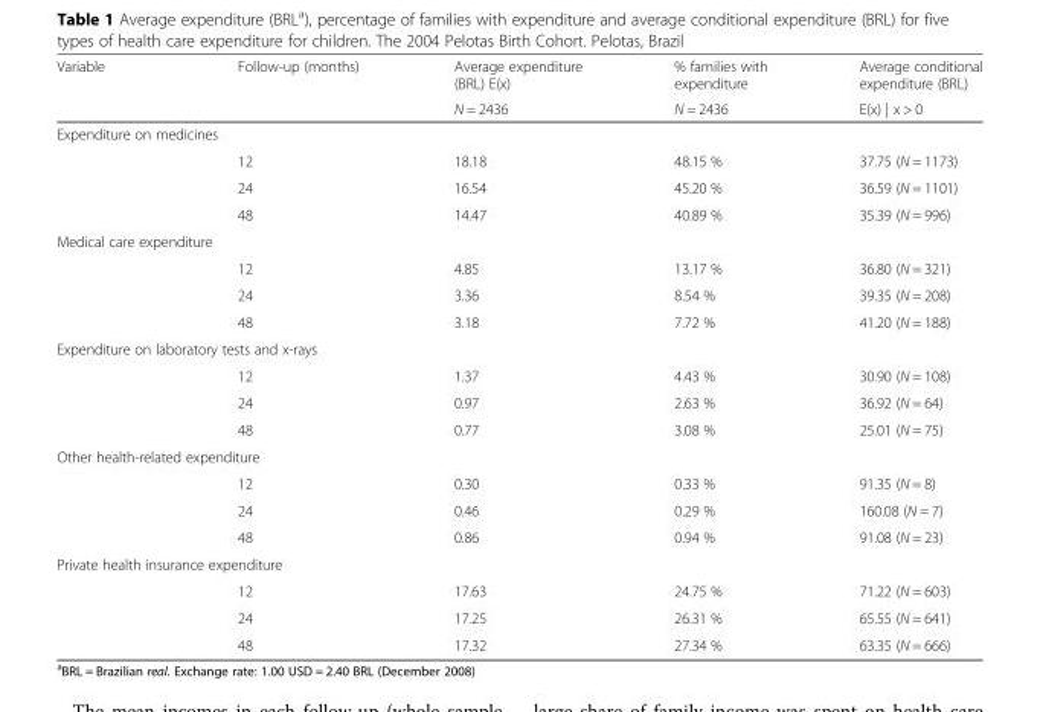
<table><thead><tr><td rowspan="2">Variable</td><td rowspan="2">Follow-up (months)</td><td rowspan="2">Average expenditure (BRL) E(x) N = 2436</td><td rowspan="2">% families with expenditure N = 2436</td><td rowspan="2">Average conditional expenditure (BRL) E(x) | x &gt; 0</td></tr><tr></tr></thead><tbody><tr><td colspan="5">Expenditure on medicines</td></tr><tr><td rowspan="3"></td><td>12</td><td>18.18</td><td>48.15 %</td><td>37.75 (N = 1173)</td></tr><tr><td>24</td><td>16.54</td><td>45.20 %</td><td>36.59 (N = 1101)</td></tr><tr><td>48</td><td>14.47</td><td>40.89 %</td><td>35.39 (N = 996)</td></tr><tr><td colspan="5">Medical care expenditure</td></tr><tr><td rowspan="3"></td><td>12</td><td>4.85</td><td>13.17 %</td><td>36.80 (N = 321)</td></tr><tr><td>24</td><td>3.36</td><td>8.54 %</td><td>39.35 (N = 208)</td></tr><tr><td>48</td><td>3.18</td><td>7.72 %</td><td>41.20 (N = 188)</td></tr><tr><td colspan="5">Expenditure on laboratory tests and x-rays</td></tr><tr><td rowspan="3"></td><td>12</td><td>1.37</td><td>4.43 %</td><td>30.90 (N = 108)</td></tr><tr><td>24</td><td>0.97</td><td>2.63 %</td><td>36.92 (N = 64)</td></tr><tr><td>48</td><td>0.77</td><td>3.08 %</td><td>25.01 (N = 75)</td></tr><tr><td colspan="5">Other health-related expenditure</td></tr><tr><td rowspan="3"></td><td>12</td><td>0.30</td><td>0.33 %</td><td>91.35 (N = 8)</td></tr><tr><td>24</td><td>0.46</td><td>0.29 %</td><td>160.08 (N = 7)</td></tr><tr><td>48</td><td>0.86</td><td>0.94 %</td><td>91.08 (N = 23)</td></tr><tr><td colspan="5">Private health insurance expenditure</td></tr><tr><td rowspan="3"></td><td>12</td><td>17.63</td><td>24.75 %</td><td>71.22 (N = 603)</td></tr><tr><td>24</td><td>17.25</td><td>26.31 %</td><td>65.55 (N = 641)</td></tr><tr><td>48</td><td>17.32</td><td>27.34 %</td><td>63.35 (N = 666)</td></tr></tbody></table>